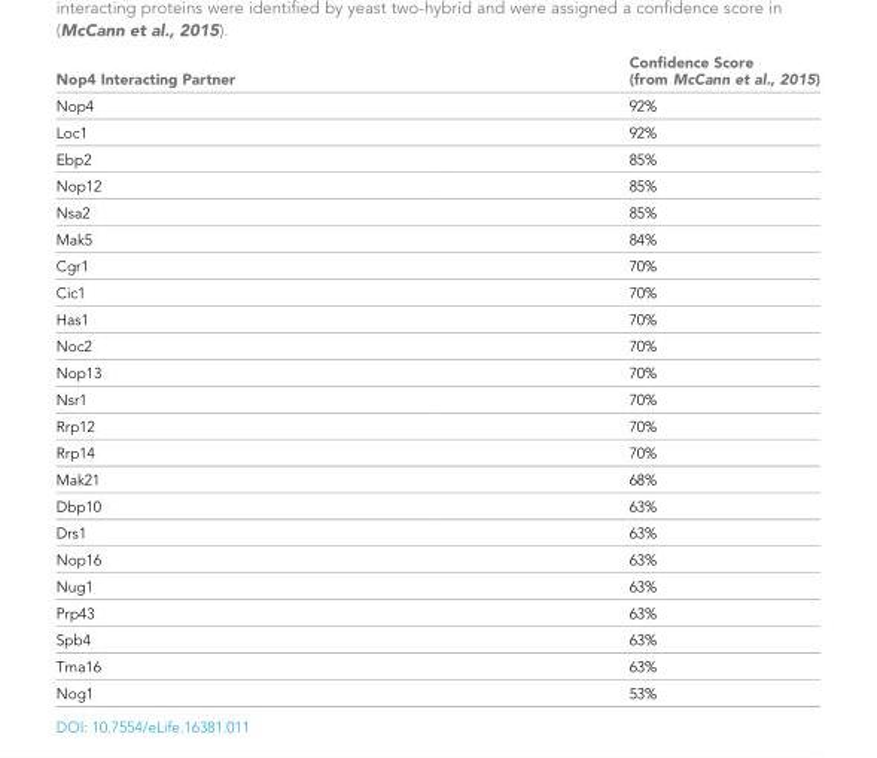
<table><thead><tr><td>Nop4 Interacting Partner</td><td>Confidence Score (from McCann et al., 2015)</td></tr></thead><tbody><tr><td>Nop4</td><td>92%</td></tr><tr><td>Loc1</td><td>92%</td></tr><tr><td>Ebp2</td><td>85%</td></tr><tr><td>Nop12</td><td>85%</td></tr><tr><td>Nsa2</td><td>85%</td></tr><tr><td>Mak5</td><td>84%</td></tr><tr><td>Cgr1</td><td>70%</td></tr><tr><td>Cic1</td><td>70%</td></tr><tr><td>Has1</td><td>70%</td></tr><tr><td>Noc2</td><td>70%</td></tr><tr><td>Nop13</td><td>70%</td></tr><tr><td>Nsr1</td><td>70%</td></tr><tr><td>Rrp12</td><td>70%</td></tr><tr><td>Rrp14</td><td>70%</td></tr><tr><td>Mak21</td><td>68%</td></tr><tr><td>Dbp10</td><td>63%</td></tr><tr><td>Drs1</td><td>63%</td></tr><tr><td>Nop16</td><td>63%</td></tr><tr><td>Nug1</td><td>63%</td></tr><tr><td>Prp43</td><td>63%</td></tr><tr><td>Spb4</td><td>63%</td></tr><tr><td>Tma16</td><td>63%</td></tr><tr><td>Nog1</td><td>53%</td></tr></tbody></table>